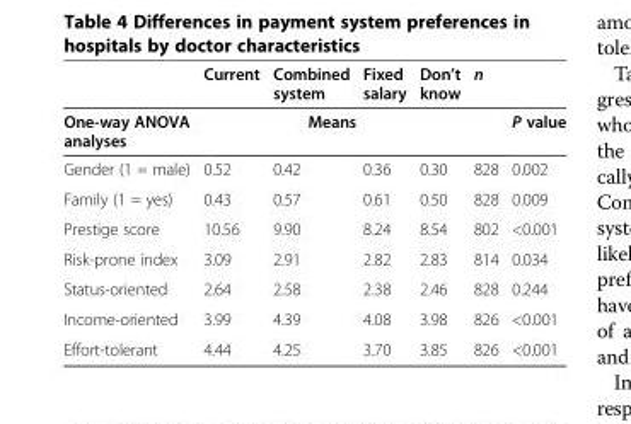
<table><thead><tr><td rowspan="2">One-way ANOVA analyses</td><td>Current</td><td>Combined system</td><td>Fixed salary</td><td>Don’t know</td><td rowspan="2">n</td><td rowspan="2">P value</td></tr><tr><td colspan="4">Means</td></tr></thead><tbody><tr><td>Gender (1 = male)</td><td>0.52</td><td>0.42</td><td>0.36</td><td>0.30</td><td>828</td><td>0.002</td></tr><tr><td>Family (1 = yes)</td><td>0.43</td><td>0.57</td><td>0.61</td><td>0.50</td><td>828</td><td>0.009</td></tr><tr><td>Prestige score</td><td>10.56</td><td>9.90</td><td>8.24</td><td>8.54</td><td>802</td><td>&lt;0.001</td></tr><tr><td>Risk-prone index</td><td>3.09</td><td>2.91</td><td>2.82</td><td>2.83</td><td>814</td><td>0.034</td></tr><tr><td>Status-oriented</td><td>2.64</td><td>2.58</td><td>2.38</td><td>2.46</td><td>828</td><td>0.244</td></tr><tr><td>Income-oriented</td><td>3.99</td><td>4.39</td><td>4.08</td><td>3.98</td><td>826</td><td>&lt;0.001</td></tr><tr><td>Effort-tolerant</td><td>4.44</td><td>4.25</td><td>3.70</td><td>3.85</td><td>826</td><td>&lt;0.001</td></tr></tbody></table>